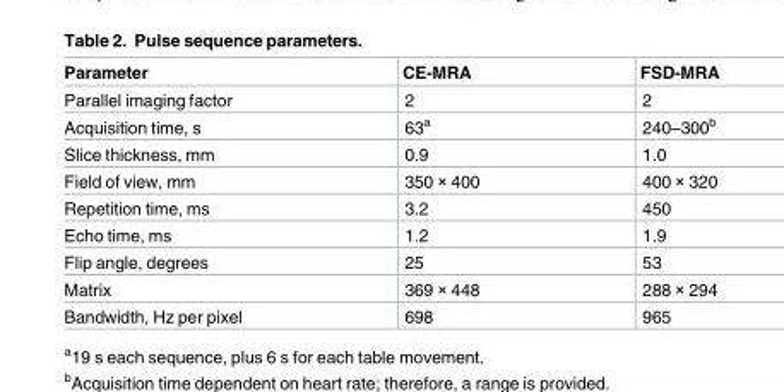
<table><thead><tr><td>Parameter</td><td>CE-MRA</td><td>FSD-MRA</td></tr></thead><tbody><tr><td>Parallel imaging factor</td><td>2</td><td>2</td></tr><tr><td>Acquisition time, s</td><td>63<sup>a</sup></td><td>240–300<sup>b</sup></td></tr><tr><td>Slice thickness, mm</td><td>0.9</td><td>1.0</td></tr><tr><td>Field of view, mm</td><td>350 × 400</td><td>400 × 320</td></tr><tr><td>Repetition time, ms</td><td>3.2</td><td>450</td></tr><tr><td>Echo time, ms</td><td>1.2</td><td>1.9</td></tr><tr><td>Flip angle, degrees</td><td>25</td><td>53</td></tr><tr><td>Matrix</td><td>369 × 448</td><td>288 × 294</td></tr><tr><td>Bandwidth, Hz per pixel</td><td>698</td><td>965</td></tr></tbody></table>